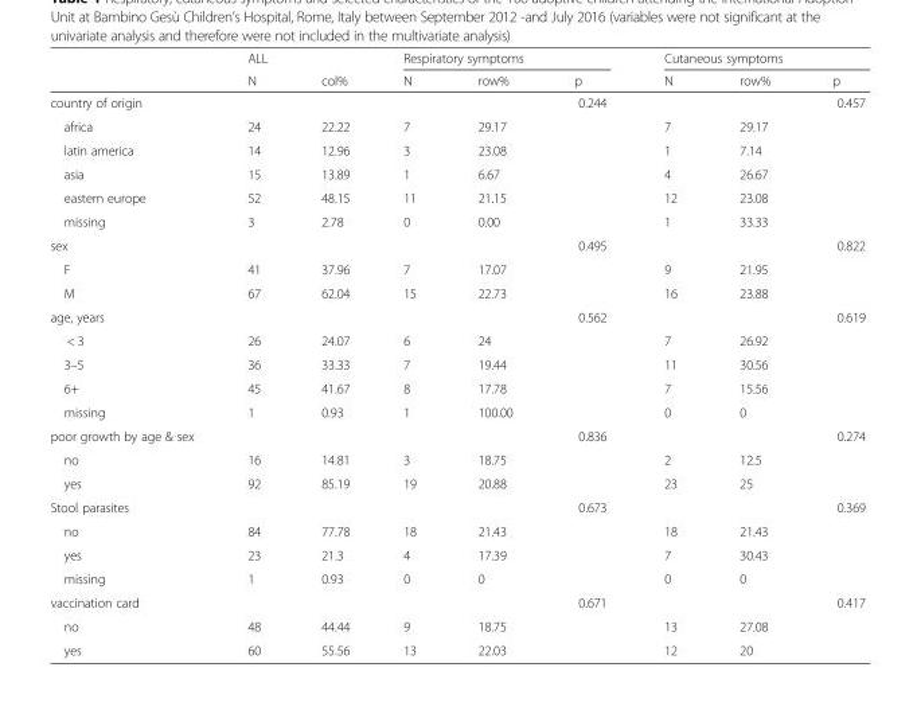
<table><thead><tr><td rowspan="2"></td><td rowspan="2">ALL N</td><td rowspan="2">col%</td><td colspan="3">Respiratory symptoms</td><td colspan="3">Cutaneous symptoms</td></tr><tr><td>N</td><td>row%</td><td>p</td><td>N</td><td>row%</td><td>p</td></tr></thead><tbody><tr><td>country of origin</td><td></td><td></td><td></td><td></td><td>0.244</td><td></td><td></td><td>0.457</td></tr><tr><td>africa</td><td>24</td><td>22.22</td><td>7</td><td>29.17</td><td></td><td>7</td><td>29.17</td><td></td></tr><tr><td>latin america</td><td>14</td><td>12.96</td><td>3</td><td>23.08</td><td></td><td>1</td><td>7.14</td><td></td></tr><tr><td>asia</td><td>15</td><td>13.89</td><td>1</td><td>6.67</td><td></td><td>4</td><td>26.67</td><td></td></tr><tr><td>eastern europe</td><td>52</td><td>48.15</td><td>11</td><td>21.15</td><td></td><td>12</td><td>23.08</td><td></td></tr><tr><td>missing</td><td>3</td><td>2.78</td><td>0</td><td>0.00</td><td></td><td>1</td><td>33.33</td><td></td></tr><tr><td>sex</td><td></td><td></td><td></td><td></td><td>0.495</td><td></td><td></td><td>0.822</td></tr><tr><td>F</td><td>41</td><td>37.96</td><td>7</td><td>17.07</td><td></td><td>9</td><td>21.95</td><td></td></tr><tr><td>M</td><td>67</td><td>62.04</td><td>15</td><td>22.73</td><td></td><td>16</td><td>23.88</td><td></td></tr><tr><td>age, years</td><td></td><td></td><td></td><td></td><td>0.562</td><td></td><td></td><td>0.619</td></tr><tr><td>&lt; 3</td><td>26</td><td>24.07</td><td>6</td><td>24</td><td></td><td>7</td><td>26.92</td><td></td></tr><tr><td>3–5</td><td>36</td><td>33.33</td><td>7</td><td>19.44</td><td></td><td>11</td><td>30.56</td><td></td></tr><tr><td>6+</td><td>45</td><td>41.67</td><td>8</td><td>17.78</td><td></td><td>7</td><td>15.56</td><td></td></tr><tr><td>missing</td><td>1</td><td>0.93</td><td>1</td><td>100.00</td><td></td><td>0</td><td>0</td><td></td></tr><tr><td>poor growth by age &amp; sex</td><td></td><td></td><td></td><td></td><td>0.836</td><td></td><td></td><td>0.274</td></tr><tr><td>no</td><td>16</td><td>14.81</td><td>3</td><td>18.75</td><td></td><td>2</td><td>12.5</td><td></td></tr><tr><td>yes</td><td>92</td><td>85.19</td><td>19</td><td>20.88</td><td></td><td>23</td><td>25</td><td></td></tr><tr><td>Stool parasites</td><td></td><td></td><td></td><td></td><td>0.673</td><td></td><td></td><td>0.369</td></tr><tr><td>no</td><td>84</td><td>77.78</td><td>18</td><td>21.43</td><td></td><td>18</td><td>21.43</td><td></td></tr><tr><td>yes</td><td>23</td><td>21.3</td><td>4</td><td>17.39</td><td></td><td>7</td><td>30.43</td><td></td></tr><tr><td>missing</td><td>1</td><td>0.93</td><td>0</td><td>0</td><td></td><td>0</td><td>0</td><td></td></tr><tr><td>vaccination card</td><td></td><td></td><td></td><td></td><td>0.671</td><td></td><td></td><td>0.417</td></tr><tr><td>no</td><td>48</td><td>44.44</td><td>9</td><td>18.75</td><td></td><td>13</td><td>27.08</td><td></td></tr><tr><td>yes</td><td>60</td><td>55.56</td><td>13</td><td>22.03</td><td></td><td>12</td><td>20</td><td></td></tr></tbody></table>